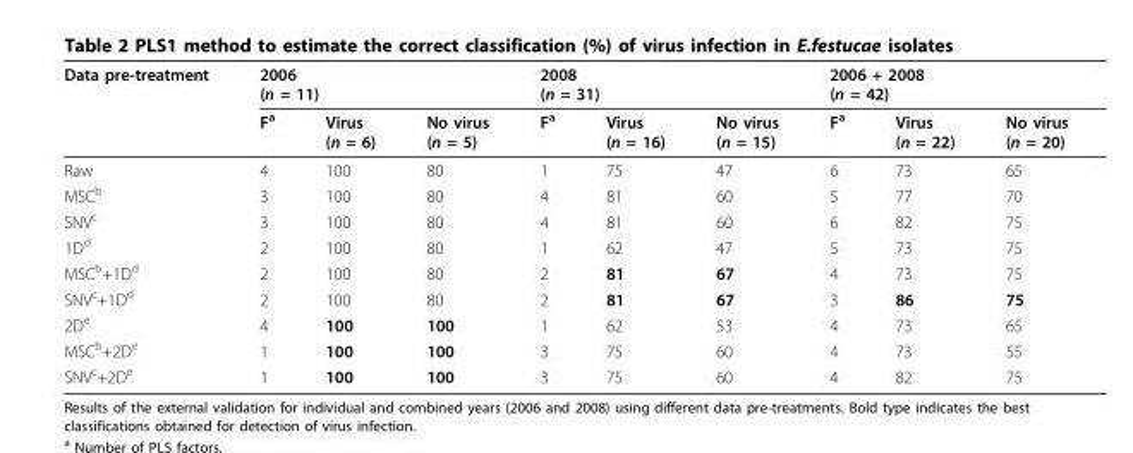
<table><thead><tr><td rowspan="2">Data pre-treatment</td><td colspan="3">2006 (n = 11)</td><td colspan="3">2008 (n = 31)</td><td colspan="3">2006 + 2008 (n = 42)</td></tr><tr><td>F<sup>a</sup></td><td>Virus (n = 6)</td><td>No virus (n = 5)</td><td>F<sup>a</sup></td><td>Virus (n = 16)</td><td>No virus (n = 15)</td><td>F<sup>a</sup></td><td>Virus (n = 22)</td><td>No virus (n = 20)</td></tr></thead><tbody><tr><td>Raw</td><td>4</td><td>100</td><td>80</td><td>1</td><td>75</td><td>47</td><td>6</td><td>73</td><td>65</td></tr><tr><td>MSC<sup>b</sup></td><td>3</td><td>100</td><td>80</td><td>4</td><td>81</td><td>60</td><td>5</td><td>77</td><td>70</td></tr><tr><td>SNV<sup>c</sup></td><td>3</td><td>100</td><td>80</td><td>4</td><td>81</td><td>60</td><td>6</td><td>82</td><td>75</td></tr><tr><td>1D<sup>d</sup></td><td>2</td><td>100</td><td>80</td><td>1</td><td>62</td><td>47</td><td>5</td><td>73</td><td>75</td></tr><tr><td>MSC<sup>b</sup>+1D<sup>d</sup></td><td>2</td><td>100</td><td>80</td><td>2</td><td>81</td><td>67</td><td>4</td><td>73</td><td>75</td></tr><tr><td>SNV<sup>c</sup>+1D<sup>d</sup></td><td>2</td><td>100</td><td>80</td><td>2</td><td>81</td><td>67</td><td>3</td><td>86</td><td>75</td></tr><tr><td>2D<sup>e</sup></td><td>4</td><td>100</td><td>100</td><td>1</td><td>62</td><td>53</td><td>4</td><td>73</td><td>65</td></tr><tr><td>MSC<sup>b</sup>+2D<sup>e</sup></td><td>1</td><td>100</td><td>100</td><td>3</td><td>75</td><td>60</td><td>4</td><td>73</td><td>55</td></tr><tr><td>SNV<sup>c</sup>+2D<sup>e</sup></td><td>1</td><td>100</td><td>100</td><td>3</td><td>75</td><td>60</td><td>4</td><td>82</td><td>75</td></tr></tbody></table>